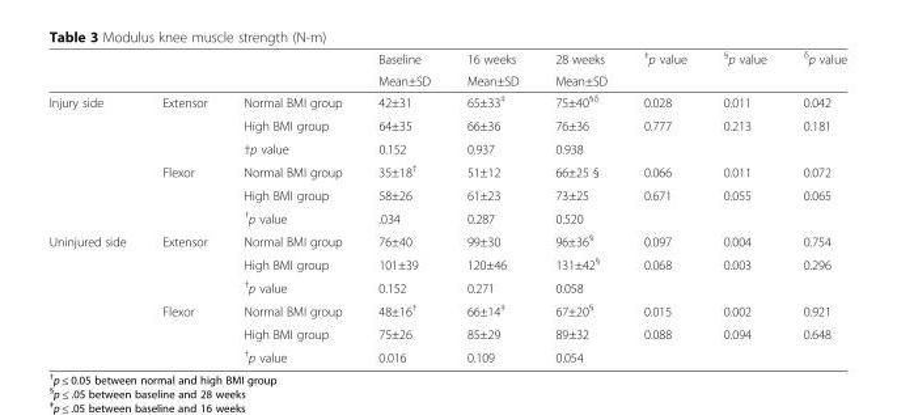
<table><thead><tr><td rowspan="2"></td><td rowspan="2"></td><td rowspan="2"></td><td rowspan="2">Baseline Mean±SD</td><td rowspan="2">16 weeks Mean±SD</td><td rowspan="2">28 weeks Mean±SD</td><td rowspan="2"><sup>‡</sup>p value</td><td rowspan="2"><sup>§</sup>p value</td><td rowspan="2"><sup>δ</sup>p value</td></tr><tr></tr></thead><tbody><tr><td rowspan="6">Injury side</td><td rowspan="3">Extensor</td><td>Normal BMI group</td><td>42±31</td><td>65±33<sup>‡</sup></td><td>75±40<sup>§δ</sup></td><td>0.028</td><td>0.011</td><td>0.042</td></tr><tr><td>High BMI group</td><td>64±35</td><td>66±36</td><td>76±36</td><td>0.777</td><td>0.213</td><td>0.181</td></tr><tr><td>†p value</td><td>0.152</td><td>0.937</td><td>0.938</td><td></td><td></td><td></td></tr><tr><td rowspan="3">Flexor</td><td>Normal BMI group</td><td>35±18<sup>†</sup></td><td>51±12</td><td>66±25 §</td><td>0.066</td><td>0.011</td><td>0.072</td></tr><tr><td>High BMI group</td><td>58±26</td><td>61±23</td><td>73±25</td><td>0.671</td><td>0.055</td><td>0.065</td></tr><tr><td><sup>†</sup>p value</td><td>.034</td><td>0.287</td><td>0.520</td><td></td><td></td><td></td></tr><tr><td rowspan="6">Uninjured side</td><td rowspan="3">Extensor</td><td>Normal BMI group</td><td>76±40</td><td>99±30</td><td>96±36<sup>§</sup></td><td>0.097</td><td>0.004</td><td>0.754</td></tr><tr><td>High BMI group</td><td>101±39</td><td>120±46</td><td>131±42<sup>§</sup></td><td>0.068</td><td>0.003</td><td>0.296</td></tr><tr><td><sup>†</sup>p value</td><td>0.152</td><td>0.271</td><td>0.058</td><td></td><td></td><td></td></tr><tr><td rowspan="3">Flexor</td><td>Normal BMI group</td><td>48±16<sup>†</sup></td><td>66±14<sup>‡</sup></td><td>67±20<sup>§</sup></td><td>0.015</td><td>0.002</td><td>0.921</td></tr><tr><td>High BMI group</td><td>75±26</td><td>85±29</td><td>89±32</td><td>0.088</td><td>0.094</td><td>0.648</td></tr><tr><td><sup>†</sup>p value</td><td>0.016</td><td>0.109</td><td>0.054</td><td></td><td></td><td></td></tr></tbody></table>